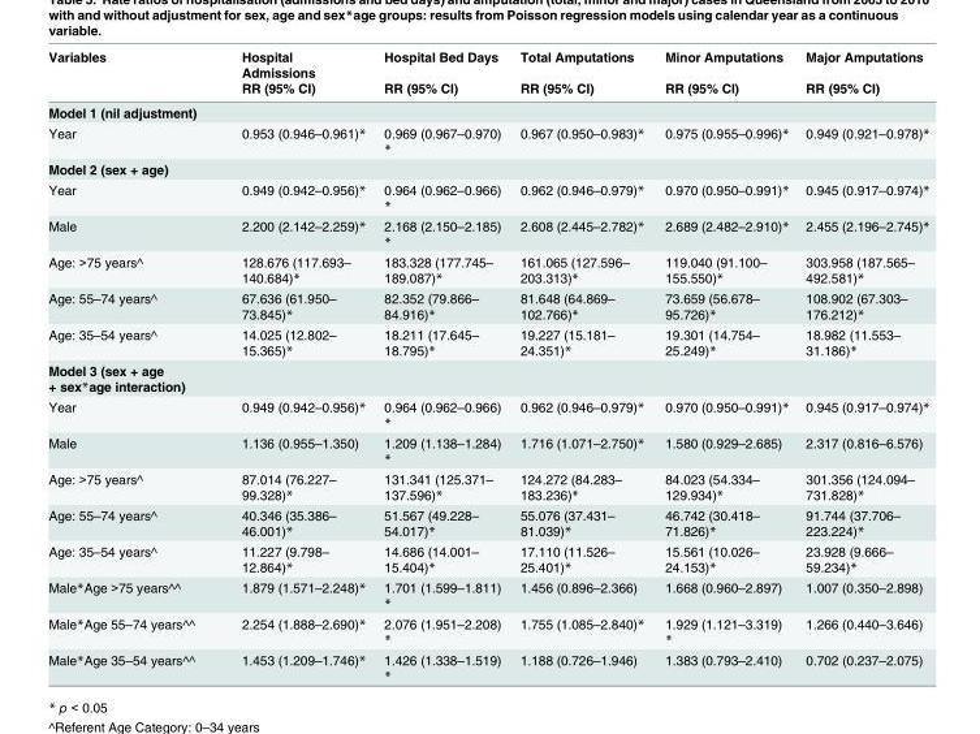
<table><thead><tr><td rowspan="2">Variables</td><td rowspan="2">Hospital Admissions RR (95% CI)</td><td rowspan="2">Hospital Bed Days RR (95% CI)</td><td rowspan="2">Total Amputations RR (95% CI)</td><td rowspan="2">Minor Amputations RR (95% CI)</td><td rowspan="2">Major Amputations RR (95% CI)</td></tr><tr></tr></thead><tbody><tr><td colspan="6">Model 1 (nil adjustment)</td></tr><tr><td>Year</td><td>0.953 (0.946–0.961)*</td><td>0.969 (0.967–0.970) *</td><td>0.967 (0.950–0.983)*</td><td>0.975 (0.955–0.996)*</td><td>0.949 (0.921–0.978)*</td></tr><tr><td colspan="6">Model 2 (sex + age)</td></tr><tr><td>Year</td><td>0.949 (0.942–0.956)*</td><td>0.964 (0.962–0.966) *</td><td>0.962 (0.946–0.979)*</td><td>0.970 (0.950–0.991)*</td><td>0.945 (0.917–0.974)*</td></tr><tr><td>Male</td><td>2.200 (2.142–2.259)*</td><td>2.168 (2.150–2.185) *</td><td>2.608 (2.445–2.782)*</td><td>2.689 (2.482–2.910)*</td><td>2.455 (2.196–2.745)*</td></tr><tr><td>Age: &gt;75 years^</td><td>128.676 (117.693– 140.684)*</td><td>183.328 (177.745– 189.087)*</td><td>161.065 (127.596– 203.313)*</td><td>119.040 (91.100– 155.550)*</td><td>303.958 (187.565– 492.581)*</td></tr><tr><td>Age: 55–74 years^</td><td>67.636 (61.950– 73.845)*</td><td>82.352 (79.866– 84.916)*</td><td>81.648 (64.869– 102.766)*</td><td>73.659 (56.678– 95.726)*</td><td>108.902 (67.303– 176.212)*</td></tr><tr><td>Age: 35–54 years^</td><td>14.025 (12.802– 15.365)*</td><td>18.211 (17.645– 18.795)*</td><td>19.227 (15.181– 24.351)*</td><td>19.301 (14.754– 25.249)*</td><td>18.982 (11.553– 31.186)*</td></tr><tr><td colspan="6">Model 3 (sex + age + sex*age interaction)</td></tr><tr><td>Year</td><td>0.949 (0.942–0.956)*</td><td>0.964 (0.962–0.966) *</td><td>0.962 (0.946–0.979)*</td><td>0.970 (0.950–0.991)*</td><td>0.945 (0.917–0.974)*</td></tr><tr><td>Male</td><td>1.136 (0.955–1.350)</td><td>1.209 (1.138–1.284) *</td><td>1.716 (1.071–2.750)*</td><td>1.580 (0.929–2.685)</td><td>2.317 (0.816–6.576)</td></tr><tr><td>Age: &gt;75 years^</td><td>87.014 (76.227– 99.328)*</td><td>131.341 (125.371– 137.596)*</td><td>124.272 (84.283– 183.236)*</td><td>84.023 (54.334– 129.934)*</td><td>301.356 (124.094– 731.828)*</td></tr><tr><td>Age: 55–74 years^</td><td>40.346 (35.386– 46.001)*</td><td>51.567 (49.228– 54.017)*</td><td>55.076 (37.431– 81.039)*</td><td>46.742 (30.418– 71.826)*</td><td>91.744 (37.706– 223.224)*</td></tr><tr><td>Age: 35–54 years^</td><td>11.227 (9.798– 12.864)*</td><td>14.686 (14.001– 15.404)*</td><td>17.110 (11.526– 25.401)*</td><td>15.561 (10.026– 24.153)*</td><td>23.928 (9.666– 59.234)*</td></tr><tr><td>Male*Age &gt;75 years^^</td><td>1.879 (1.571–2.248)*</td><td>1.701 (1.599–1.811) *</td><td>1.456 (0.896–2.366)</td><td>1.668 (0.960–2.897)</td><td>1.007 (0.350–2.898)</td></tr><tr><td>Male*Age 55–74 years^^</td><td>2.254 (1.888–2.690)*</td><td>2.076 (1.951–2.208) *</td><td>1.755 (1.085–2.840)*</td><td>1.929 (1.121–3.319) *</td><td>1.266 (0.440–3.646)</td></tr><tr><td>Male*Age 35–54 years^^</td><td>1.453 (1.209–1.746)*</td><td>1.426 (1.338–1.519) *</td><td>1.188 (0.726–1.946)</td><td>1.383 (0.793–2.410)</td><td>0.702 (0.237–2.075)</td></tr></tbody></table>